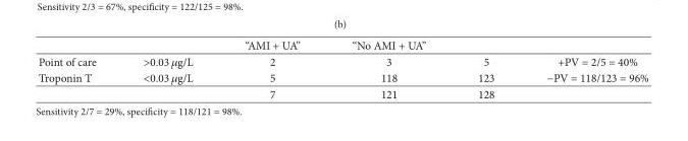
<table><thead><tr><td></td><td></td><td>“AMI + UA”</td><td>“No AMI + UA”</td><td></td><td></td></tr></thead><tbody><tr><td>Point of care</td><td>&gt;0.03 𝜇𝜇g/L</td><td>2</td><td>3</td><td>5</td><td>+PV = 2/5 = 40%</td></tr><tr><td rowspan="2">Troponin T</td><td>&lt;0.03 𝜇𝜇g/L</td><td>5</td><td>118</td><td>123</td><td>−PV = 118/123 = 96%</td></tr><tr><td></td><td>7</td><td>121</td><td>128</td><td></td></tr></tbody></table>